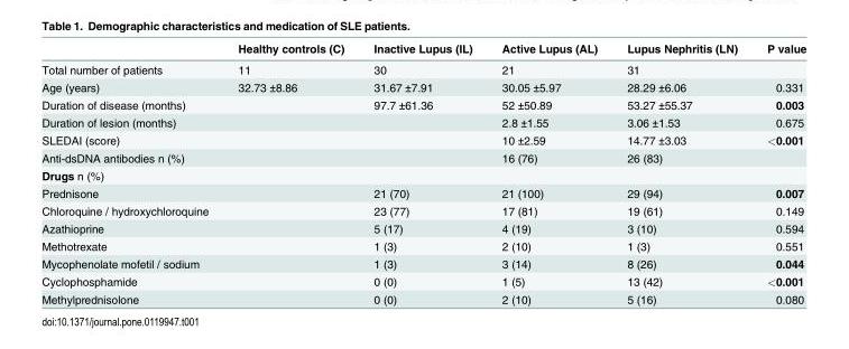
<table><thead><tr><td></td><td>Healthy controls (C)</td><td>Inactive Lupus (IL)</td><td>Active Lupus (AL)</td><td>Lupus Nephritis (LN)</td><td>P value</td></tr></thead><tbody><tr><td>Total number of patients</td><td>11</td><td>30</td><td>21</td><td>31</td><td></td></tr><tr><td>Age (years)</td><td>32.73 ±8.86</td><td>31.67 ±7.91</td><td>30.05 ±5.97</td><td>28.29 ±6.06</td><td>0.331</td></tr><tr><td>Duration of disease (months)</td><td></td><td>97.7 ±61.36</td><td>52 ±50.89</td><td>53.27 ±55.37</td><td>0.003</td></tr><tr><td>Duration of lesion (months)</td><td></td><td></td><td>2.8 ±1.55</td><td>3.06 ±1.53</td><td>0.675</td></tr><tr><td>SLEDAI (score)</td><td></td><td></td><td>10 ±2.59</td><td>14.77 ±3.03</td><td>&lt;0.001</td></tr><tr><td>Anti-dsDNA antibodies n (%)</td><td></td><td></td><td>16 (76)</td><td>26 (83)</td><td></td></tr><tr><td colspan="6">Drugs n (%)</td></tr><tr><td>Prednisone</td><td></td><td>21 (70)</td><td>21 (100)</td><td>29 (94)</td><td>0.007</td></tr><tr><td>Chloroquine / hydroxychloroquine</td><td></td><td>23 (77)</td><td>17 (81)</td><td>19 (61)</td><td>0.149</td></tr><tr><td>Azathioprine</td><td></td><td>5 (17)</td><td>4 (19)</td><td>3 (10)</td><td>0.594</td></tr><tr><td>Methotrexate</td><td></td><td>1 (3)</td><td>2 (10)</td><td>1 (3)</td><td>0.551</td></tr><tr><td>Mycophenolate mofetil / sodium</td><td></td><td>1 (3)</td><td>3 (14)</td><td>8 (26)</td><td>0.044</td></tr><tr><td>Cyclophosphamide</td><td></td><td>0 (0)</td><td>1 (5)</td><td>13 (42)</td><td>&lt;0.001</td></tr><tr><td>Methylprednisolone</td><td></td><td>0 (0)</td><td>2 (10)</td><td>5 (16)</td><td>0.080</td></tr></tbody></table>